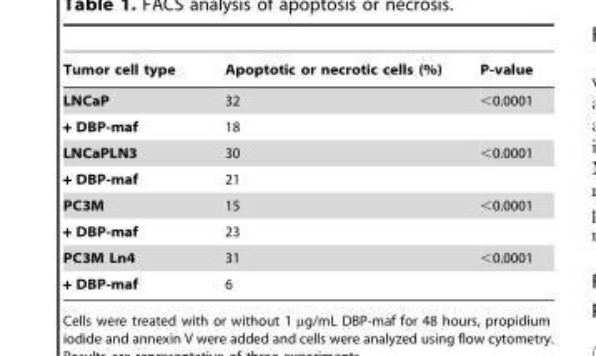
<table><thead><tr><td>Tumor cell type</td><td>Apoptotic or necrotic cells (%)</td><td>P-value</td></tr></thead><tbody><tr><td>LNCaP</td><td>32</td><td>&lt;0.0001</td></tr><tr><td>+ DBP-maf</td><td>18</td><td></td></tr><tr><td>LNCaPLN3</td><td>30</td><td>&lt;0.0001</td></tr><tr><td>+ DBP-maf</td><td>21</td><td></td></tr><tr><td>PC3M</td><td>15</td><td>&lt;0.0001</td></tr><tr><td>+ DBP-maf</td><td>23</td><td></td></tr><tr><td>PC3M Ln4</td><td>31</td><td>&lt;0.0001</td></tr><tr><td>+ DBP-maf</td><td>6</td><td></td></tr></tbody></table>